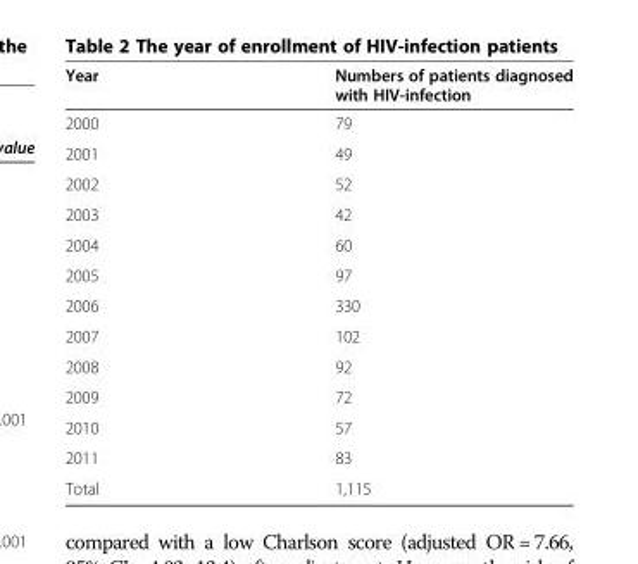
<table><thead><tr><td>Year</td><td>Numbers of patients diagnosed with HIV-infection</td></tr></thead><tbody><tr><td>2000</td><td>79</td></tr><tr><td>2001</td><td>49</td></tr><tr><td>2002</td><td>52</td></tr><tr><td>2003</td><td>42</td></tr><tr><td>2004</td><td>60</td></tr><tr><td>2005</td><td>97</td></tr><tr><td>2006</td><td>330</td></tr><tr><td>2007</td><td>102</td></tr><tr><td>2008</td><td>92</td></tr><tr><td>2009</td><td>72</td></tr><tr><td>2010</td><td>57</td></tr><tr><td>2011</td><td>83</td></tr><tr><td>Total</td><td>1,115</td></tr></tbody></table>